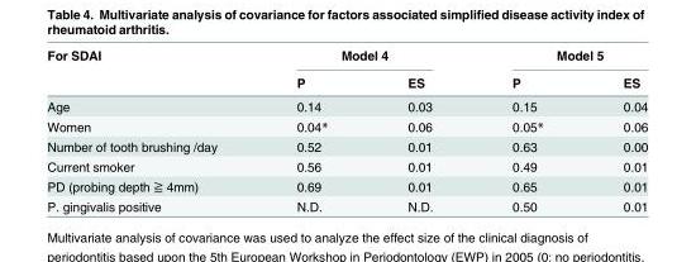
<table><thead><tr><td rowspan="2">For SDAI</td><td colspan="2">Model 4</td><td colspan="2">Model 5</td></tr><tr><td>P</td><td>ES</td><td>P</td><td>ES</td></tr></thead><tbody><tr><td>Age</td><td>0.14</td><td>0.03</td><td>0.15</td><td>0.04</td></tr><tr><td>Women</td><td>0.04*</td><td>0.06</td><td>0.05*</td><td>0.06</td></tr><tr><td>Number of tooth brushing /day</td><td>0.52</td><td>0.01</td><td>0.63</td><td>0.00</td></tr><tr><td>Current smoker</td><td>0.56</td><td>0.01</td><td>0.49</td><td>0.01</td></tr><tr><td>PD (probing depth ≧ 4mm)</td><td>0.69</td><td>0.01</td><td>0.65</td><td>0.01</td></tr><tr><td>P. gingivalis positive</td><td>N.D.</td><td>N.D.</td><td>0.50</td><td>0.01</td></tr></tbody></table>